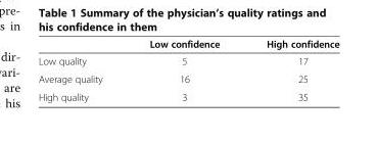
<table><thead><tr><td></td><td>Low confidence</td><td>High confidence</td></tr></thead><tbody><tr><td>Low quality</td><td>5</td><td>17</td></tr><tr><td>Average quality</td><td>16</td><td>25</td></tr><tr><td>High quality</td><td>3</td><td>35</td></tr></tbody></table>